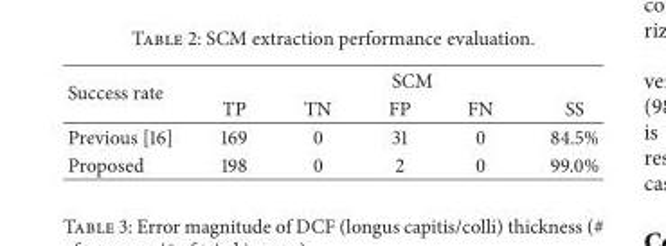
<table><thead><tr><td rowspan="2">Success rate</td><td colspan="5">SCM</td></tr><tr><td>TP</td><td>TN</td><td>FP</td><td>FN</td><td>SS</td></tr></thead><tbody><tr><td>Previous [16]</td><td>169</td><td>0</td><td>31</td><td>0</td><td>84.5%</td></tr><tr><td>Proposed</td><td>198</td><td>0</td><td>2</td><td>0</td><td>99.0%</td></tr></tbody></table>